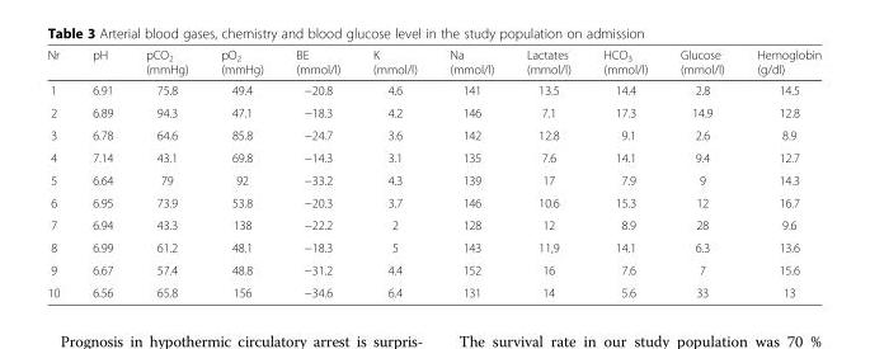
<table><thead><tr><td>Nr</td><td>pH</td><td>pCO<sub>2</sub> (mmHg)</td><td>pO<sub>2</sub> (mmHg)</td><td>BE (mmol/l)</td><td>K (mmol/l)</td><td>Na (mmol/l)</td><td>Lactates (mmol/l)</td><td>HCO<sub>3</sub> (mmol/l)</td><td>Glucose (mmol/l)</td><td>Hemoglobin (g/dl)</td></tr></thead><tbody><tr><td>1</td><td>6.91</td><td>75.8</td><td>49.4</td><td>−20.8</td><td>4.6</td><td>141</td><td>13.5</td><td>14.4</td><td>2.8</td><td>14.5</td></tr><tr><td>2</td><td>6.89</td><td>94.3</td><td>47.1</td><td>−18.3</td><td>4.2</td><td>146</td><td>7.1</td><td>17.3</td><td>14.9</td><td>12.8</td></tr><tr><td>3</td><td>6.78</td><td>64.6</td><td>85.8</td><td>−24.7</td><td>3.6</td><td>142</td><td>12.8</td><td>9.1</td><td>2.6</td><td>8.9</td></tr><tr><td>4</td><td>7.14</td><td>43.1</td><td>69.8</td><td>−14.3</td><td>3.1</td><td>135</td><td>7.6</td><td>14.1</td><td>9.4</td><td>12.7</td></tr><tr><td>5</td><td>6.64</td><td>79</td><td>92</td><td>−33.2</td><td>4.3</td><td>139</td><td>17</td><td>7.9</td><td>9</td><td>14.3</td></tr><tr><td>6</td><td>6.95</td><td>73.9</td><td>53.8</td><td>−20.3</td><td>3.7</td><td>146</td><td>10.6</td><td>15.3</td><td>12</td><td>16.7</td></tr><tr><td>7</td><td>6.94</td><td>43.3</td><td>138</td><td>−22.2</td><td>2</td><td>128</td><td>12</td><td>8.9</td><td>28</td><td>9.6</td></tr><tr><td>8</td><td>6.99</td><td>61.2</td><td>48.1</td><td>−18.3</td><td>5</td><td>143</td><td>11,9</td><td>14.1</td><td>6.3</td><td>13.6</td></tr><tr><td>9</td><td>6.67</td><td>57.4</td><td>48.8</td><td>−31.2</td><td>4.4</td><td>152</td><td>16</td><td>7.6</td><td>7</td><td>15.6</td></tr><tr><td>10</td><td>6.56</td><td>65.8</td><td>156</td><td>−34.6</td><td>6.4</td><td>131</td><td>14</td><td>5.6</td><td>33</td><td>13</td></tr></tbody></table>